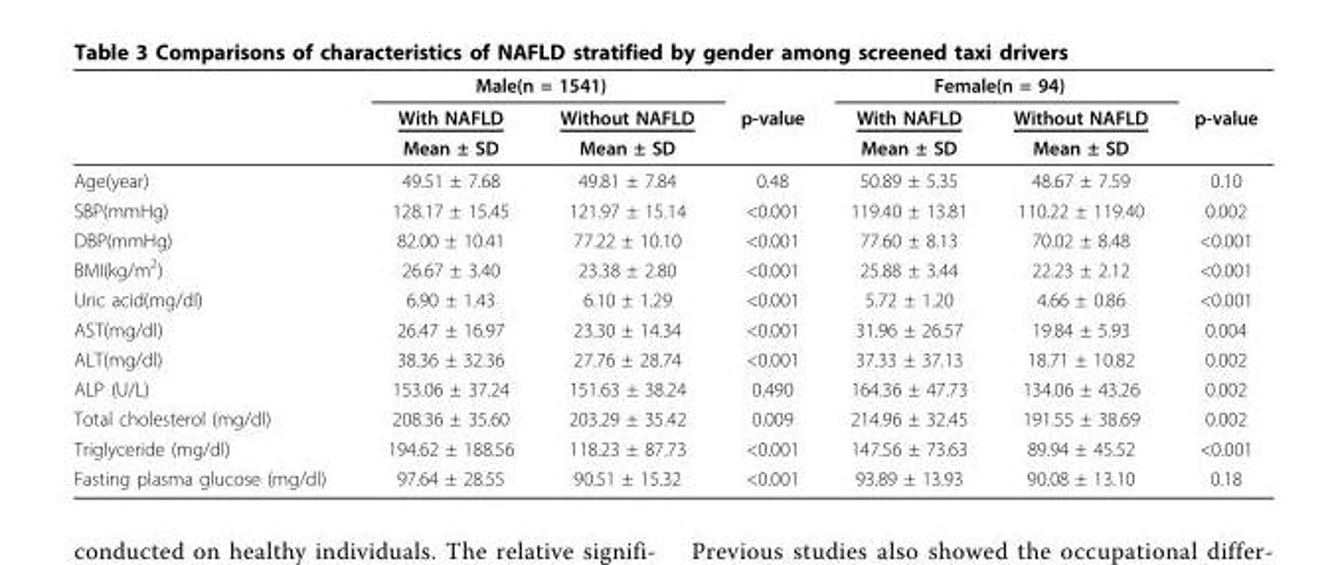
<table><thead><tr><td rowspan="3"></td><td colspan="2">Male(n = 1541)</td><td rowspan="3">p-value</td><td colspan="2">Female(n = 94)</td><td rowspan="3">p-value</td></tr><tr><td rowspan="2">With NAFLD Mean ± SD</td><td rowspan="2">Without NAFLD Mean ± SD</td><td rowspan="2">With NAFLD Mean ± SD</td><td rowspan="2">Without NAFLD Mean ± SD</td></tr><tr></tr></thead><tbody><tr><td>Age(year)</td><td>49.51 ± 7.68</td><td>49.81 ± 7.84</td><td>0.48</td><td>50.89 ± 5.35</td><td>48.67 ± 7.59</td><td>0.10</td></tr><tr><td>SBP(mmHg)</td><td>128.17 ± 15.45</td><td>121.97 ± 15.14</td><td>&lt;0.001</td><td>119.40 ± 13.81</td><td>110.22 ± 119.40</td><td>0.002</td></tr><tr><td>DBP(mmHg)</td><td>82.00 ± 10.41</td><td>77.22 ± 10.10</td><td>&lt;0.001</td><td>77.60 ± 8.13</td><td>70.02 ± 8.48</td><td>&lt;0.001</td></tr><tr><td>BMI(kg/m<sup>2</sup>)</td><td>26.67 ± 3.40</td><td>23.38 ± 2.80</td><td>&lt;0.001</td><td>25.88 ± 3.44</td><td>22.23 ± 2.12</td><td>&lt;0.001</td></tr><tr><td>Uric acid(mg/dl)</td><td>6.90 ± 1.43</td><td>6.10 ± 1.29</td><td>&lt;0.001</td><td>5.72 ± 1.20</td><td>4.66 ± 0.86</td><td>&lt;0.001</td></tr><tr><td>AST(mg/dl)</td><td>26.47 ± 16.97</td><td>23.30 ± 14.34</td><td>&lt;0.001</td><td>31.96 ± 26.57</td><td>19.84 ± 5.93</td><td>0.004</td></tr><tr><td>ALT(mg/dl)</td><td>38.36 ± 32.36</td><td>27.76 ± 28.74</td><td>&lt;0.001</td><td>37.33 ± 37.13</td><td>18.71 ± 10.82</td><td>0.002</td></tr><tr><td>ALP (U/L)</td><td>153.06 ± 37.24</td><td>151.63 ± 38.24</td><td>0.490</td><td>164.36 ± 47.73</td><td>134.06 ± 43.26</td><td>0.002</td></tr><tr><td>Total cholesterol (mg/dl)</td><td>208.36 ± 35.60</td><td>203.29 ± 35.42</td><td>0.009</td><td>214.96 ± 32.45</td><td>191.55 ± 38.69</td><td>0.002</td></tr><tr><td>Triglyceride (mg/dl)</td><td>194.62 ± 188.56</td><td>118.23 ± 87.73</td><td>&lt;0.001</td><td>147.56 ± 73.63</td><td>89.94 ± 45.52</td><td>&lt;0.001</td></tr><tr><td>Fasting plasma glucose (mg/dl)</td><td>97.64 ± 28.55</td><td>90.51 ± 15.32</td><td>&lt;0.001</td><td>93.89 ± 13.93</td><td>90.08 ± 13.10</td><td>0.18</td></tr></tbody></table>